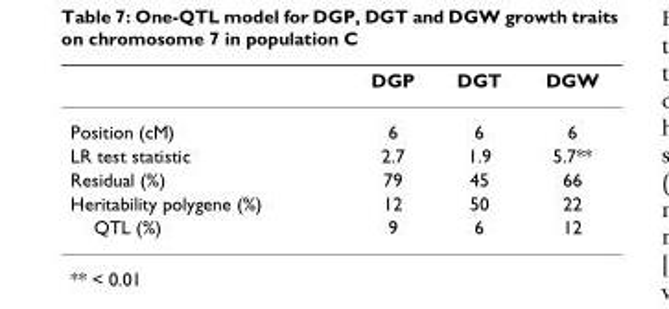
<table><thead><tr><td></td><td>DGP</td><td>DGT</td><td>DGW</td></tr></thead><tbody><tr><td>Position (cM)</td><td>6</td><td>6</td><td>6</td></tr><tr><td>LR test statistic</td><td>2.7</td><td>1.9</td><td>5.7**</td></tr><tr><td>Residual (%)</td><td>79</td><td>45</td><td>66</td></tr><tr><td>Heritability polygene (%)</td><td>12</td><td>50</td><td>22</td></tr><tr><td>QTL (%)</td><td>9</td><td>6</td><td>12</td></tr></tbody></table>